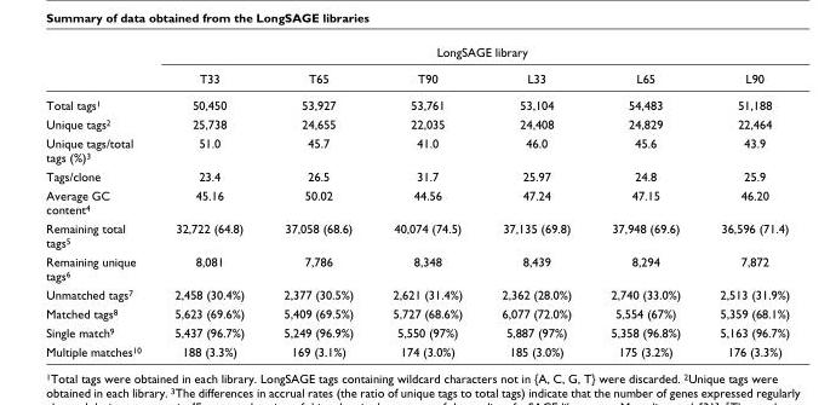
<table><thead><tr><td rowspan="2"></td><td colspan="6">LongSAGE library</td></tr><tr><td>T33</td><td>T65</td><td>T90</td><td>L33</td><td>L65</td><td>L90</td></tr></thead><tbody><tr><td>Total tags<sup>1</sup></td><td>50,450</td><td>53,927</td><td>53,761</td><td>53,104</td><td>54,483</td><td>51,188</td></tr><tr><td>Unique tags<sup>2</sup></td><td>25,738</td><td>24,655</td><td>22,035</td><td>24,408</td><td>24,829</td><td>22,464</td></tr><tr><td>Unique tags/total tags (%)<sup>3</sup></td><td>51.0</td><td>45.7</td><td>41.0</td><td>46.0</td><td>45.6</td><td>43.9</td></tr><tr><td>Tags/clone</td><td>23.4</td><td>26.5</td><td>31.7</td><td>25.97</td><td>24.8</td><td>25.9</td></tr><tr><td>Average GC content<sup>4</sup></td><td>45.16</td><td>50.02</td><td>44.56</td><td>47.24</td><td>47.15</td><td>46.20</td></tr><tr><td>Remaining total tags<sup>5</sup></td><td>32,722 (64.8)</td><td>37,058 (68.6)</td><td>40,074 (74.5)</td><td>37,135 (69.8)</td><td>37,948 (69.6)</td><td>36,596 (71.4)</td></tr><tr><td>Remaining unique tags<sup>6</sup></td><td>8,081</td><td>7,786</td><td>8,348</td><td>8,439</td><td>8,294</td><td>7,872</td></tr><tr><td>Unmatched tags<sup>7</sup></td><td>2,458 (30.4%)</td><td>2,377 (30.5%)</td><td>2,621 (31.4%)</td><td>2,362 (28.0%)</td><td>2,740 (33.0%)</td><td>2,513 (31.9%)</td></tr><tr><td>Matched tags<sup>8</sup></td><td>5,623 (69.6%)</td><td>5,409 (69.5%)</td><td>5,727 (68.6%)</td><td>6,077 (72.0%)</td><td>5,554 (67%)</td><td>5,359 (68.1%)</td></tr><tr><td>Single match<sup>9</sup></td><td>5,437 (96.7%)</td><td>5,249 (96.9%)</td><td>5,550 (97%)</td><td>5,887 (97%)</td><td>5,358 (96.8%)</td><td>5,163 (96.7%)</td></tr><tr><td>Multiple matches<sup>10</sup></td><td>188 (3.3%)</td><td>169 (3.1%)</td><td>174 (3.0%)</td><td>185 (3.0%)</td><td>175 (3.2%)</td><td>176 (3.3%)</td></tr></tbody></table>